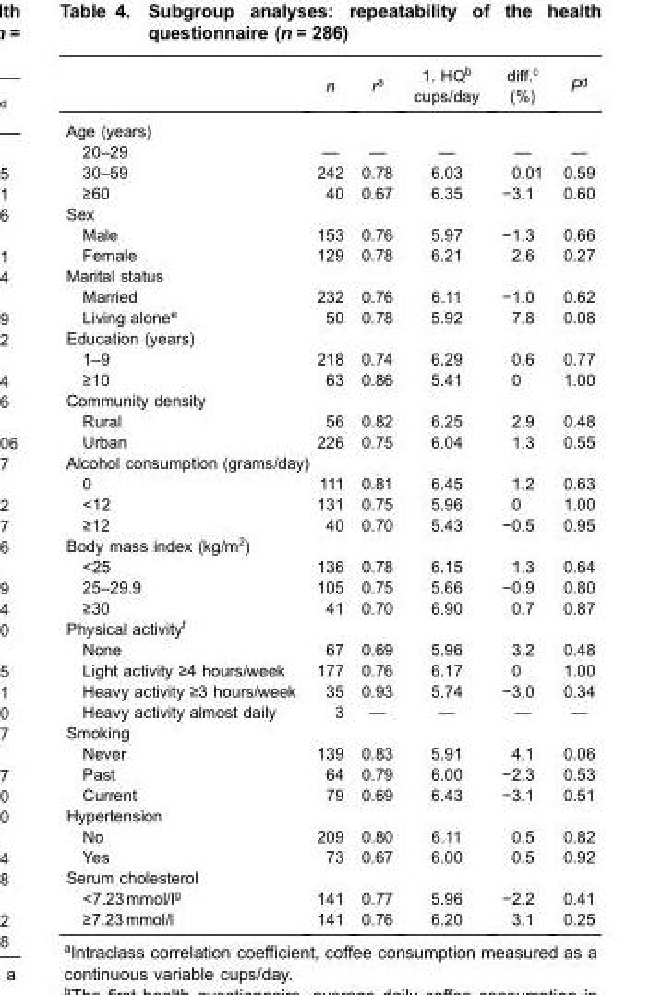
<table><thead><tr><td></td><td>n</td><td>r<sup>a</sup></td><td>1. HQ<sup>b</sup> cups/day</td><td>diff.<sup>c</sup> (%)</td><td>P<sup>d</sup></td></tr></thead><tbody><tr><td colspan="6">Age (years)</td></tr><tr><td>20–29</td><td>—</td><td>—</td><td>—</td><td>—</td><td>—</td></tr><tr><td>30–59</td><td>242</td><td>0.78</td><td>6.03</td><td>0.01</td><td>0.59</td></tr><tr><td>≥60</td><td>40</td><td>0.67</td><td>6.35</td><td>−3.1</td><td>0.60</td></tr><tr><td colspan="6">Sex</td></tr><tr><td>Male</td><td>153</td><td>0.76</td><td>5.97</td><td>−1.3</td><td>0.66</td></tr><tr><td>Female</td><td>129</td><td>0.78</td><td>6.21</td><td>2.6</td><td>0.27</td></tr><tr><td colspan="6">Marital status</td></tr><tr><td>Married</td><td>232</td><td>0.76</td><td>6.11</td><td>−1.0</td><td>0.62</td></tr><tr><td>Living alone<sup>e</sup></td><td>50</td><td>0.78</td><td>5.92</td><td>7.8</td><td>0.08</td></tr><tr><td colspan="6">Education (years)</td></tr><tr><td>1–9</td><td>218</td><td>0.74</td><td>6.29</td><td>0.6</td><td>0.77</td></tr><tr><td>≥10</td><td>63</td><td>0.86</td><td>5.41</td><td>0</td><td>1.00</td></tr><tr><td colspan="6">Community density</td></tr><tr><td>Rural</td><td>56</td><td>0.82</td><td>6.25</td><td>2.9</td><td>0.48</td></tr><tr><td>Urban</td><td>226</td><td>0.75</td><td>6.04</td><td>1.3</td><td>0.55</td></tr><tr><td colspan="6">Alcohol consumption (grams/day)</td></tr><tr><td>0</td><td>111</td><td>0.81</td><td>6.45</td><td>1.2</td><td>0.63</td></tr><tr><td>&lt;12</td><td>131</td><td>0.75</td><td>5.96</td><td>0</td><td>1.00</td></tr><tr><td>≥12</td><td>40</td><td>0.70</td><td>5.43</td><td>−0.5</td><td>0.95</td></tr><tr><td colspan="6">Body mass index (kg/m<sup>2</sup>)</td></tr><tr><td>&lt;25</td><td>136</td><td>0.78</td><td>6.15</td><td>1.3</td><td>0.64</td></tr><tr><td>25–29.9</td><td>105</td><td>0.75</td><td>5.66</td><td>−0.9</td><td>0.80</td></tr><tr><td>≥30</td><td>41</td><td>0.70</td><td>6.90</td><td>0.7</td><td>0.87</td></tr><tr><td colspan="6">Physical activity<sup>f</sup></td></tr><tr><td>None</td><td>67</td><td>0.69</td><td>5.96</td><td>3.2</td><td>0.48</td></tr><tr><td>Light activity ≥4 hours/week</td><td>177</td><td>0.76</td><td>6.17</td><td>0</td><td>1.00</td></tr><tr><td>Heavy activity ≥3 hours/week</td><td>35</td><td>0.93</td><td>5.74</td><td>−3.0</td><td>0.34</td></tr><tr><td>Heavy activity almost daily</td><td>3</td><td>—</td><td>—</td><td>—</td><td>—</td></tr><tr><td colspan="6">Smoking</td></tr><tr><td>Never</td><td>139</td><td>0.83</td><td>5.91</td><td>4.1</td><td>0.06</td></tr><tr><td>Past</td><td>64</td><td>0.79</td><td>6.00</td><td>−2.3</td><td>0.53</td></tr><tr><td>Current</td><td>79</td><td>0.69</td><td>6.43</td><td>−3.1</td><td>0.51</td></tr><tr><td colspan="6">Hypertension</td></tr><tr><td>No</td><td>209</td><td>0.80</td><td>6.11</td><td>0.5</td><td>0.82</td></tr><tr><td>Yes</td><td>73</td><td>0.67</td><td>6.00</td><td>0.5</td><td>0.92</td></tr><tr><td colspan="6">Serum cholesterol</td></tr><tr><td>&lt;7.23 mmol/l<sup>g</sup></td><td>141</td><td>0.77</td><td>5.96</td><td>−2.2</td><td>0.41</td></tr><tr><td>≥7.23 mmol/l</td><td>141</td><td>0.76</td><td>6.20</td><td>3.1</td><td>0.25</td></tr></tbody></table>